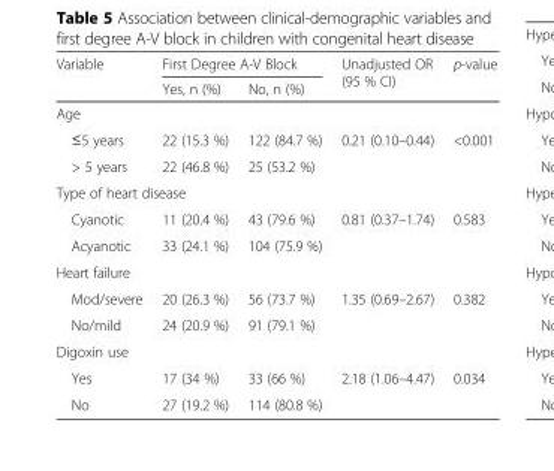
<table><thead><tr><td rowspan="2">Variable</td><td colspan="2">First Degree A-V Block</td><td rowspan="2">Unadjusted OR (95 % CI)</td><td rowspan="2">p-value</td></tr><tr><td>Yes, n (%)</td><td>No, n (%)</td></tr></thead><tbody><tr><td colspan="5">Age</td></tr><tr><td>≤5 years</td><td>22 (15.3 %)</td><td>122 (84.7 %)</td><td rowspan="2">0.21 (0.10–0.44)</td><td rowspan="2">&lt;0.001</td></tr><tr><td>&gt; 5 years</td><td>22 (46.8 %)</td><td>25 (53.2 %)</td></tr><tr><td colspan="5">Type of heart disease</td></tr><tr><td>Cyanotic</td><td>11 (20.4 %)</td><td>43 (79.6 %)</td><td rowspan="2">0.81 (0.37–1.74)</td><td rowspan="2">0.583</td></tr><tr><td>Acyanotic</td><td>33 (24.1 %)</td><td>104 (75.9 %)</td></tr><tr><td colspan="5">Heart failure</td></tr><tr><td>Mod/severe</td><td>20 (26.3 %)</td><td>56 (73.7 %)</td><td rowspan="2">1.35 (0.69–2.67)</td><td rowspan="2">0.382</td></tr><tr><td>No/mild</td><td>24 (20.9 %)</td><td>91 (79.1 %)</td></tr><tr><td colspan="5">Digoxin use</td></tr><tr><td>Yes</td><td>17 (34 %)</td><td>33 (66 %)</td><td rowspan="2">2.18 (1.06–4.47)</td><td rowspan="2">0.034</td></tr><tr><td>No</td><td>27 (19.2 %)</td><td>114 (80.8 %)</td></tr></tbody></table>